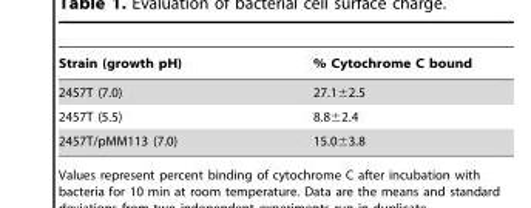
<table><thead><tr><td>Strain (growth pH)</td><td>% Cytochrome C bound</td></tr></thead><tbody><tr><td>2457T (7.0)</td><td>27.1±2.5</td></tr><tr><td>2457T (5.5)</td><td>8.8±2.4</td></tr><tr><td>2457T/pMM113 (7.0)</td><td>15.0±3.8</td></tr></tbody></table>